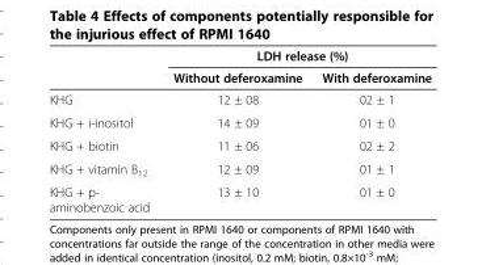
<table><thead><tr><td rowspan="2"></td><td colspan="2">LDH release (%)</td></tr><tr><td>Without deferoxamine</td><td>With deferoxamine</td></tr></thead><tbody><tr><td>KHG</td><td>12 ± 08</td><td>02 ± 1</td></tr><tr><td>KHG + i-inositol</td><td>14 ± 09</td><td>01 ± 0</td></tr><tr><td>KHG + biotin</td><td>11 ± 06</td><td>02 ± 2</td></tr><tr><td>KHG + vitamin B<sub>12</sub></td><td>12 ± 09</td><td>01 ± 1</td></tr><tr><td>KHG + p- aminobenzoic acid</td><td>13 ± 10</td><td>01 ± 0</td></tr></tbody></table>